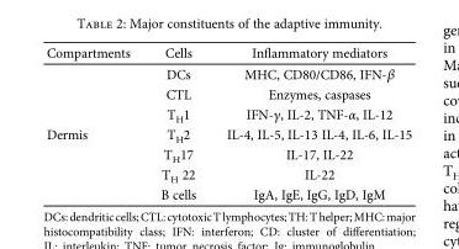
<table><tbody><tr><td>Compartments</td><td>Cells</td><td>Inflammatory mediators</td></tr><tr><td rowspan="7">Dermis</td><td>DCs</td><td>MHC, CD80/CD86, IFN-β</td></tr><tr><td>CTL</td><td>Enzymes, caspases</td></tr><tr><td>T<sub>H</sub>1</td><td>IFN-γ, IL-2, TNF-α, IL-12</td></tr><tr><td>T<sub>H</sub>2</td><td>IL-4, IL-5, IL-13 IL-4, IL-6, IL-15</td></tr><tr><td>T<sub>H</sub>17</td><td>IL-17, IL-22</td></tr><tr><td>T<sub>H</sub> 22</td><td>IL-22</td></tr><tr><td>B cells</td><td>IgA, IgE, IgG, IgD, IgM</td></tr></tbody></table>